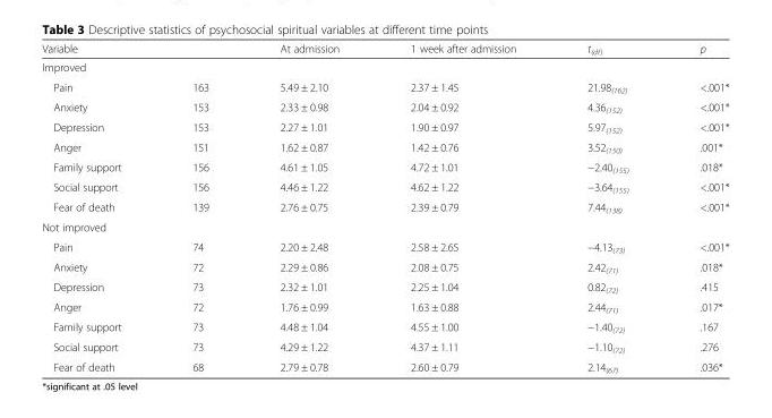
<table><thead><tr><td>Variable</td><td></td><td>At admission</td><td>1 week after admission</td><td>t<sub>(df)</sub></td><td>p</td></tr></thead><tbody><tr><td colspan="6">Improved</td></tr><tr><td>Pain</td><td>163</td><td>5.49 ± 2.10</td><td>2.37 ± 1.45</td><td>21.98<sub>(162)</sub></td><td>&lt;.001*</td></tr><tr><td>Anxiety</td><td>153</td><td>2.33 ± 0.98</td><td>2.04 ± 0.92</td><td>4.36<sub>(152)</sub></td><td>&lt;.001*</td></tr><tr><td>Depression</td><td>153</td><td>2.27 ± 1.01</td><td>1.90 ± 0.97</td><td>5.97<sub>(152)</sub></td><td>&lt;.001*</td></tr><tr><td>Anger</td><td>151</td><td>1.62 ± 0.87</td><td>1.42 ± 0.76</td><td>3.52<sub>(150)</sub></td><td>.001*</td></tr><tr><td>Family support</td><td>156</td><td>4.61 ± 1.05</td><td>4.72 ± 1.01</td><td>−2.40<sub>(155)</sub></td><td>.018*</td></tr><tr><td>Social support</td><td>156</td><td>4.46 ± 1.22</td><td>4.62 ± 1.22</td><td>−3.64<sub>(155)</sub></td><td>&lt;.001*</td></tr><tr><td>Fear of death</td><td>139</td><td>2.76 ± 0.75</td><td>2.39 ± 0.79</td><td>7.44<sub>(138)</sub></td><td>&lt;.001*</td></tr><tr><td colspan="6">Not improved</td></tr><tr><td>Pain</td><td>74</td><td>2.20 ± 2.48</td><td>2.58 ± 2.65</td><td>−4.13<sub>(73)</sub></td><td>&lt;.001*</td></tr><tr><td>Anxiety</td><td>72</td><td>2.29 ± 0.86</td><td>2.08 ± 0.75</td><td>2.42<sub>(71)</sub></td><td>.018*</td></tr><tr><td>Depression</td><td>73</td><td>2.32 ± 1.01</td><td>2.25 ± 1.04</td><td>0.82<sub>(72)</sub></td><td>.415</td></tr><tr><td>Anger</td><td>72</td><td>1.76 ± 0.99</td><td>1.63 ± 0.88</td><td>2.44<sub>(71)</sub></td><td>.017*</td></tr><tr><td>Family support</td><td>73</td><td>4.48 ± 1.04</td><td>4.55 ± 1.00</td><td>−1.40<sub>(72)</sub></td><td>.167</td></tr><tr><td>Social support</td><td>73</td><td>4.29 ± 1.22</td><td>4.37 ± 1.11</td><td>−1.10<sub>(72)</sub></td><td>.276</td></tr><tr><td>Fear of death</td><td>68</td><td>2.79 ± 0.78</td><td>2.60 ± 0.79</td><td>2.14<sub>(67)</sub></td><td>.036*</td></tr></tbody></table>